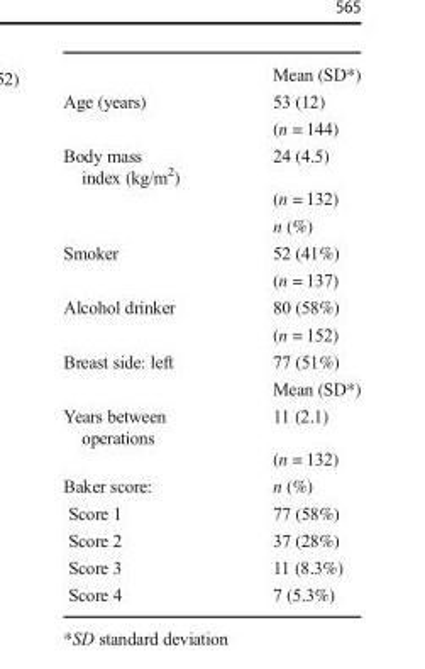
<table><thead><tr><td></td><td>Mean (SD*)</td></tr></thead><tbody><tr><td rowspan="2">Age (years)</td><td>53 (12)</td></tr><tr><td>(n = 144)</td></tr><tr><td rowspan="3">Body mass index (kg/m<sup>2</sup>)</td><td>24 (4.5)</td></tr><tr><td>(n = 132)</td></tr><tr><td>n (%)</td></tr><tr><td rowspan="2">Smoker</td><td>52 (41%)</td></tr><tr><td>(n = 137)</td></tr><tr><td rowspan="2">Alcohol drinker</td><td>80 (58%)</td></tr><tr><td>(n = 152)</td></tr><tr><td rowspan="2">Breast side: left</td><td>77 (51%)</td></tr><tr><td>Mean (SD*)</td></tr><tr><td rowspan="2">Years between operations</td><td>11 (2.1)</td></tr><tr><td>(n = 132)</td></tr><tr><td>Baker score:</td><td>n (%)</td></tr><tr><td>Score 1</td><td>77 (58%)</td></tr><tr><td>Score 2</td><td>37 (28%)</td></tr><tr><td>Score 3</td><td>11 (8.3%)</td></tr><tr><td>Score 4</td><td>7 (5.3%)</td></tr></tbody></table>